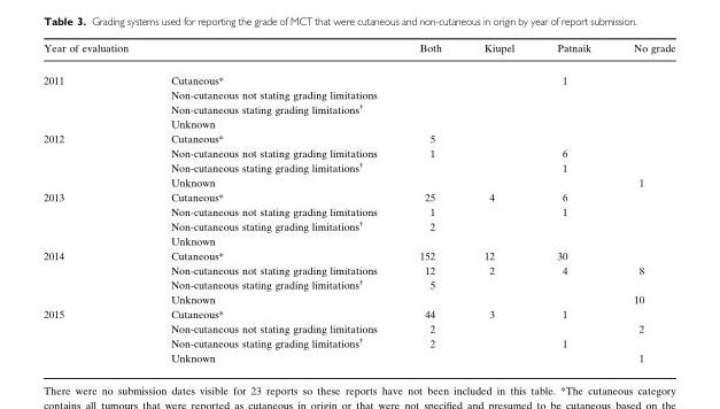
<table><thead><tr><td>Year of evaluation</td><td></td><td>Both</td><td>Kiupel</td><td>Patnaik</td><td>No grade</td></tr></thead><tbody><tr><td rowspan="4">2011</td><td>Cutaneous*</td><td></td><td></td><td>1</td><td></td></tr><tr><td>Non-cutaneous not stating grading limitations</td><td></td><td></td><td></td><td></td></tr><tr><td>Non-cutaneous stating grading limitations†</td><td></td><td></td><td></td><td></td></tr><tr><td>Unknown</td><td></td><td></td><td></td><td></td></tr><tr><td rowspan="4">2012</td><td>Cutaneous*</td><td>5</td><td></td><td></td><td></td></tr><tr><td>Non-cutaneous not stating grading limitations</td><td>1</td><td></td><td>6</td><td></td></tr><tr><td>Non-cutaneous stating grading limitations†</td><td></td><td></td><td>1</td><td></td></tr><tr><td>Unknown</td><td></td><td></td><td></td><td>1</td></tr><tr><td rowspan="4">2013</td><td>Cutaneous*</td><td>25</td><td>4</td><td>6</td><td></td></tr><tr><td>Non-cutaneous not stating grading limitations</td><td>1</td><td></td><td>1</td><td></td></tr><tr><td>Non-cutaneous stating grading limitations†</td><td>2</td><td></td><td></td><td></td></tr><tr><td>Unknown</td><td></td><td></td><td></td><td></td></tr><tr><td rowspan="4">2014</td><td>Cutaneous*</td><td>152</td><td>12</td><td>30</td><td></td></tr><tr><td>Non-cutaneous not stating grading limitations</td><td>12</td><td>2</td><td>4</td><td>8</td></tr><tr><td>Non-cutaneous stating grading limitations†</td><td>5</td><td></td><td></td><td></td></tr><tr><td>Unknown</td><td></td><td></td><td></td><td>10</td></tr><tr><td rowspan="4">2015</td><td>Cutaneous*</td><td>44</td><td>3</td><td>1</td><td></td></tr><tr><td>Non-cutaneous not stating grading limitations</td><td>2</td><td></td><td></td><td>2</td></tr><tr><td>Non-cutaneous stating grading limitations†</td><td>2</td><td></td><td>1</td><td></td></tr><tr><td>Unknown</td><td></td><td></td><td></td><td>1</td></tr></tbody></table>